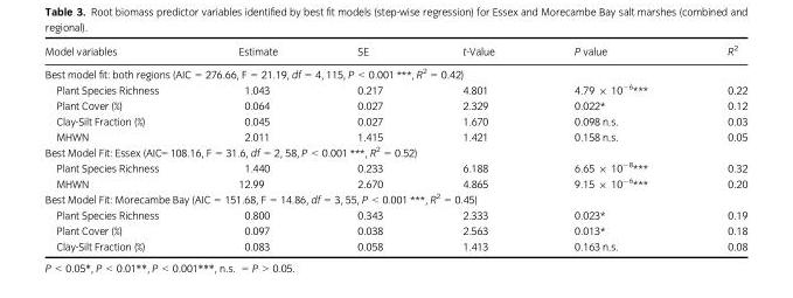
<table><thead><tr><td>Model variables</td><td>Estimate</td><td>SE</td><td>t-Value</td><td>P value</td><td>R<sup>2</sup></td></tr></thead><tbody><tr><td colspan="6">Best model fit: both regions (AIC = 276.66, F = 21.19, df = 4, 115, P &lt; 0.001 ***, R<sup>2</sup> = 0.42)</td></tr><tr><td>Plant Species Richness</td><td>1.043</td><td>0.217</td><td>4.801</td><td>4.79 × 10<sup>−6</sup>***</td><td>0.22</td></tr><tr><td>Plant Cover (%)</td><td>0.064</td><td>0.027</td><td>2.329</td><td>0.022*</td><td>0.12</td></tr><tr><td>Clay-Silt Fraction (%)</td><td>0.045</td><td>0.027</td><td>1.670</td><td>0.098 n.s.</td><td>0.03</td></tr><tr><td>MHWN</td><td>2.011</td><td>1.415</td><td>1.421</td><td>0.158 n.s.</td><td>0.05</td></tr><tr><td colspan="6">Best Model Fit: Essex (AIC= 108.16, F = 31.6, df = 2, 58, P &lt; 0.001 ***, R<sup>2</sup> = 0.52)</td></tr><tr><td>Plant Species Richness</td><td>1.440</td><td>0.233</td><td>6.188</td><td>6.65 × 10<sup>−8</sup>***</td><td>0.32</td></tr><tr><td>MHWN</td><td>12.99</td><td>2.670</td><td>4.865</td><td>9.15 × 10<sup>−6</sup>***</td><td>0.20</td></tr><tr><td colspan="6">Best Model Fit: Morecambe Bay (AIC = 151.68, F = 14.86, df = 3, 55, P &lt; 0.001 ***, R<sup>2</sup> = 0.45)</td></tr><tr><td>Plant Species Richness</td><td>0.800</td><td>0.343</td><td>2.333</td><td>0.023*</td><td>0.19</td></tr><tr><td>Plant Cover (%)</td><td>0.097</td><td>0.038</td><td>2.563</td><td>0.013*</td><td>0.18</td></tr><tr><td>Clay-Silt Fraction (%)</td><td>0.083</td><td>0.058</td><td>1.413</td><td>0.163 n.s.</td><td>0.08</td></tr></tbody></table>